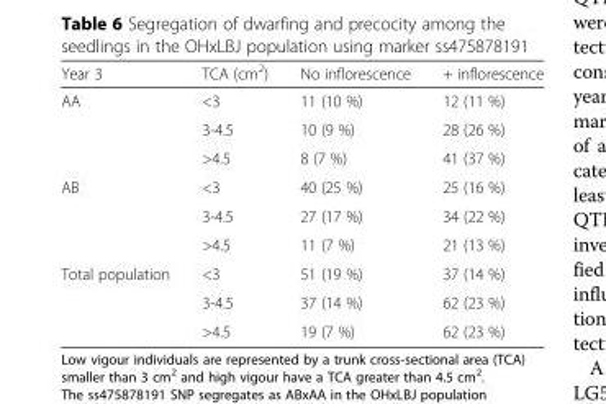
<table><thead><tr><td>Year 3</td><td>TCA (cm<sup>2</sup>)</td><td>No inflorescence</td><td>+ inflorescence</td></tr></thead><tbody><tr><td rowspan="3">AA</td><td>&lt;3</td><td>11 (10 %)</td><td>12 (11 %)</td></tr><tr><td>3-4.5</td><td>10 (9 %)</td><td>28 (26 %)</td></tr><tr><td>&gt;4.5</td><td>8 (7 %)</td><td>41 (37 %)</td></tr><tr><td rowspan="3">AB</td><td>&lt;3</td><td>40 (25 %)</td><td>25 (16 %)</td></tr><tr><td>3-4.5</td><td>27 (17 %)</td><td>34 (22 %)</td></tr><tr><td>&gt;4.5</td><td>11 (7 %)</td><td>21 (13 %)</td></tr><tr><td rowspan="3">Total population</td><td>&lt;3</td><td>51 (19 %)</td><td>37 (14 %)</td></tr><tr><td>3-4.5</td><td>37 (14 %)</td><td>62 (23 %)</td></tr><tr><td>&gt;4.5</td><td>19 (7 %)</td><td>62 (23 %)</td></tr></tbody></table>